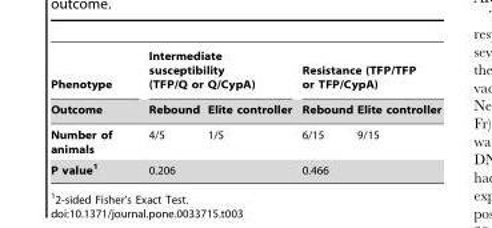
<table><thead><tr><td rowspan="2">Phenotype Outcome</td><td colspan="2">Intermediate susceptibility (TFP/Q or Q/CypA)</td><td colspan="2">Resistance (TFP/TFP or TFP/CypA)</td></tr><tr><td>Rebound</td><td>Elite controller</td><td>Rebound</td><td>Elite controller</td></tr></thead><tbody><tr><td>Number of animals</td><td>4/5</td><td>1/5</td><td>6/15</td><td>9/15</td></tr><tr><td>P value1</td><td colspan="2">0.206</td><td colspan="2">0.466</td></tr></tbody></table>